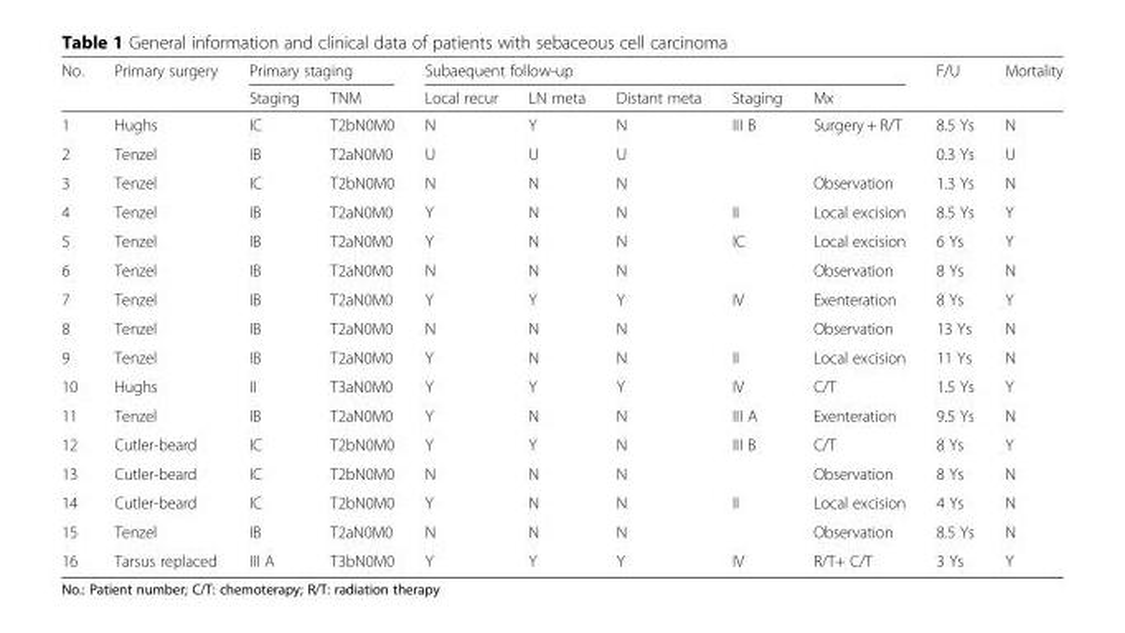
<table><thead><tr><td rowspan="2">No.</td><td rowspan="2">Primary surgery</td><td colspan="2">Primary staging</td><td colspan="5">Subaequent follow-up</td><td rowspan="2">F/U</td><td rowspan="2">Mortality</td></tr><tr><td>Staging</td><td>TNM</td><td>Local recur</td><td>LN meta</td><td>Distant meta</td><td>Staging</td><td>Mx</td></tr></thead><tbody><tr><td>1</td><td>Hughs</td><td>IC</td><td>T2bN0M0</td><td>N</td><td>Y</td><td>N</td><td>III B</td><td>Surgery + R/T</td><td>8.5 Ys</td><td>N</td></tr><tr><td>2</td><td>Tenzel</td><td>IB</td><td>T2aN0M0</td><td>U</td><td>U</td><td>U</td><td></td><td></td><td>0.3 Ys</td><td>U</td></tr><tr><td>3</td><td>Tenzel</td><td>IC</td><td>T2bN0M0</td><td>N</td><td>N</td><td>N</td><td></td><td>Observation</td><td>1.3 Ys</td><td>N</td></tr><tr><td>4</td><td>Tenzel</td><td>IB</td><td>T2aN0M0</td><td>Y</td><td>N</td><td>N</td><td>II</td><td>Local excision</td><td>8.5 Ys</td><td>Y</td></tr><tr><td>5</td><td>Tenzel</td><td>IB</td><td>T2aN0M0</td><td>Y</td><td>N</td><td>N</td><td>IC</td><td>Local excision</td><td>6 Ys</td><td>Y</td></tr><tr><td>6</td><td>Tenzel</td><td>IB</td><td>T2aN0M0</td><td>N</td><td>N</td><td>N</td><td></td><td>Observation</td><td>8 Ys</td><td>N</td></tr><tr><td>7</td><td>Tenzel</td><td>IB</td><td>T2aN0M0</td><td>Y</td><td>Y</td><td>Y</td><td>IV</td><td>Exenteration</td><td>8 Ys</td><td>Y</td></tr><tr><td>8</td><td>Tenzel</td><td>IB</td><td>T2aN0M0</td><td>N</td><td>N</td><td>N</td><td></td><td>Observation</td><td>13 Ys</td><td>N</td></tr><tr><td>9</td><td>Tenzel</td><td>IB</td><td>T2aN0M0</td><td>Y</td><td>N</td><td>N</td><td>II</td><td>Local excision</td><td>11 Ys</td><td>N</td></tr><tr><td>10</td><td>Hughs</td><td>II</td><td>T3aN0M0</td><td>Y</td><td>Y</td><td>Y</td><td>IV</td><td>C/T</td><td>1.5 Ys</td><td>Y</td></tr><tr><td>11</td><td>Tenzel</td><td>IB</td><td>T2aN0M0</td><td>Y</td><td>N</td><td>N</td><td>III A</td><td>Exenteration</td><td>9.5 Ys</td><td>N</td></tr><tr><td>12</td><td>Cutler-beard</td><td>IC</td><td>T2bN0M0</td><td>Y</td><td>Y</td><td>N</td><td>III B</td><td>C/T</td><td>8 Ys</td><td>Y</td></tr><tr><td>13</td><td>Cutler-beard</td><td>IC</td><td>T2bN0M0</td><td>N</td><td>N</td><td>N</td><td></td><td>Observation</td><td>8 Ys</td><td>N</td></tr><tr><td>14</td><td>Cutler-beard</td><td>IC</td><td>T2bN0M0</td><td>Y</td><td>N</td><td>N</td><td>II</td><td>Local excision</td><td>4 Ys</td><td>N</td></tr><tr><td>15</td><td>Tenzel</td><td>IB</td><td>T2aN0M0</td><td>N</td><td>N</td><td>N</td><td></td><td>Observation</td><td>8.5 Ys</td><td>N</td></tr><tr><td>16</td><td>Tarsus replaced</td><td>III A</td><td>T3bN0M0</td><td>Y</td><td>Y</td><td>Y</td><td>IV</td><td>R/T+ C/T</td><td>3 Ys</td><td>Y</td></tr></tbody></table>